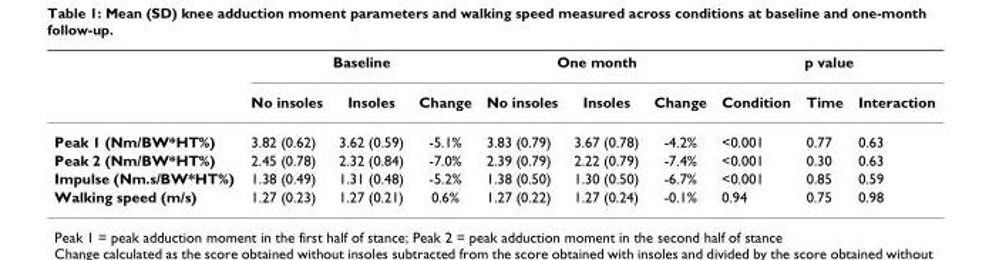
<table><thead><tr><td rowspan="2"></td><td colspan="3">Baseline</td><td colspan="3">One month</td><td colspan="3">p value</td></tr><tr><td>No insoles</td><td>Insoles</td><td>Change</td><td>No insoles</td><td>Insoles</td><td>Change</td><td>Condition</td><td>Time</td><td>Interaction</td></tr></thead><tbody><tr><td>Peak 1 (Nm/BW*HT%)</td><td>3.82 (0.62)</td><td>3.62 (0.59)</td><td>-5.1%</td><td>3.83 (0.79)</td><td>3.67 (0.78)</td><td>-4.2%</td><td>&lt;0.001</td><td>0.77</td><td>0.63</td></tr><tr><td>Peak 2 (Nm/BW*HT%)</td><td>2.45 (0.78)</td><td>2.32 (0.84)</td><td>-7.0%</td><td>2.39 (0.79)</td><td>2.22 (0.79)</td><td>-7.4%</td><td>&lt;0.001</td><td>0.30</td><td>0.63</td></tr><tr><td>Impulse (Nm.s/BW*HT%)</td><td>1.38 (0.49)</td><td>1.31 (0.48)</td><td>-5.2%</td><td>1.38 (0.50)</td><td>1.30 (0.50)</td><td>-6.7%</td><td>&lt;0.001</td><td>0.85</td><td>0.59</td></tr><tr><td>Walking speed (m/s)</td><td>1.27 (0.23)</td><td>1.27 (0.21)</td><td>0.6%</td><td>1.27 (0.22)</td><td>1.27 (0.24)</td><td>-0.1%</td><td>0.94</td><td>0.75</td><td>0.98</td></tr></tbody></table>